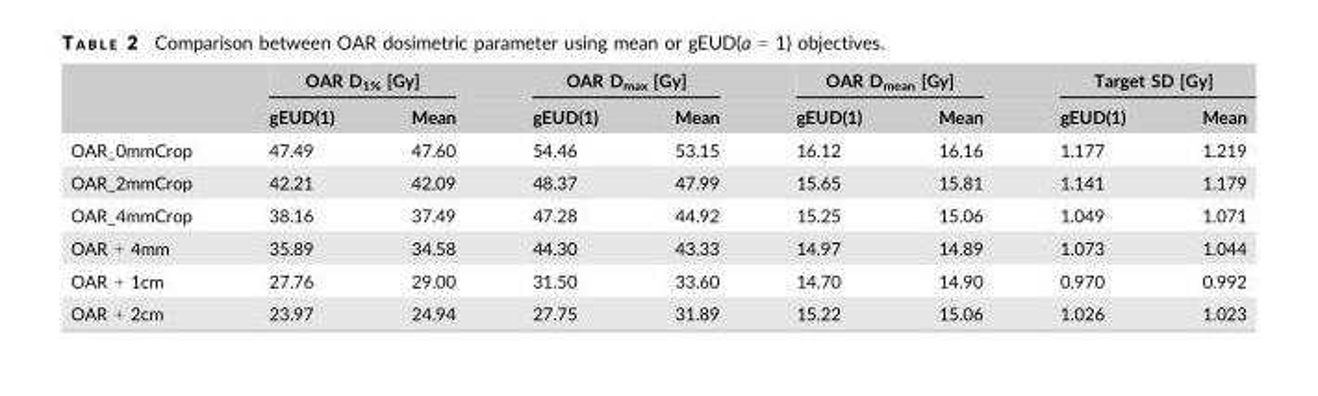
<table><thead><tr><td rowspan="2"></td><td colspan="2">OAR D<sub>1%</sub> [Gy]</td><td colspan="2">OAR D<sub>max</sub> [Gy]</td><td colspan="2">OAR D<sub>mean</sub> [Gy]</td><td colspan="2">Target SD [Gy]</td></tr><tr><td>gEUD(1)</td><td>Mean</td><td>gEUD(1)</td><td>Mean</td><td>gEUD(1)</td><td>Mean</td><td>gEUD(1)</td><td>Mean</td></tr></thead><tbody><tr><td>OAR_0mmCrop</td><td>47.49</td><td>47.60</td><td>54.46</td><td>53.15</td><td>16.12</td><td>16.16</td><td>1.177</td><td>1.219</td></tr><tr><td>OAR_2mmCrop</td><td>42.21</td><td>42.09</td><td>48.37</td><td>47.99</td><td>15.65</td><td>15.81</td><td>1.141</td><td>1.179</td></tr><tr><td>OAR_4mmCrop</td><td>38.16</td><td>37.49</td><td>47.28</td><td>44.92</td><td>15.25</td><td>15.06</td><td>1.049</td><td>1.071</td></tr><tr><td>OAR + 4mm</td><td>35.89</td><td>34.58</td><td>44.30</td><td>43.33</td><td>14.97</td><td>14.89</td><td>1.073</td><td>1.044</td></tr><tr><td>OAR + 1cm</td><td>27.76</td><td>29.00</td><td>31.50</td><td>33.60</td><td>14.70</td><td>14.90</td><td>0.970</td><td>0.992</td></tr><tr><td>OAR + 2cm</td><td>23.97</td><td>24.94</td><td>27.75</td><td>31.89</td><td>15.22</td><td>15.06</td><td>1.026</td><td>1.023</td></tr></tbody></table>